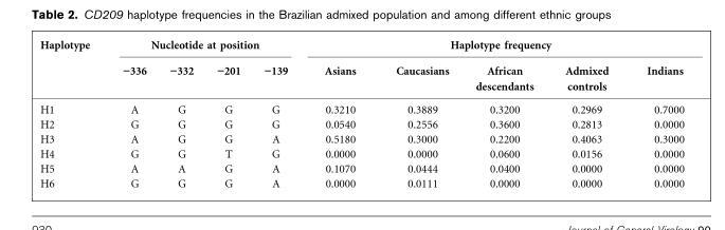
<table><thead><tr><td rowspan="2">Haplotype</td><td colspan="4">Nucleotide at position</td><td colspan="5">Haplotype frequency</td></tr><tr><td>”336</td><td>”332</td><td>”201</td><td>”139</td><td>Asians</td><td>Caucasians</td><td>African descendants</td><td>Admixed controls</td><td>Indians</td></tr></thead><tbody><tr><td>H1</td><td>A</td><td>G</td><td>G</td><td>G</td><td>0.3210</td><td>0.3889</td><td>0.3200</td><td>0.2969</td><td>0.7000</td></tr><tr><td>H2</td><td>G</td><td>G</td><td>G</td><td>G</td><td>0.0540</td><td>0.2556</td><td>0.3600</td><td>0.2813</td><td>0.0000</td></tr><tr><td>H3</td><td>A</td><td>G</td><td>G</td><td>A</td><td>0.5180</td><td>0.3000</td><td>0.2200</td><td>0.4063</td><td>0.3000</td></tr><tr><td>H4</td><td>G</td><td>G</td><td>T</td><td>G</td><td>0.0000</td><td>0.0000</td><td>0.0600</td><td>0.0156</td><td>0.0000</td></tr><tr><td>H5</td><td>A</td><td>A</td><td>G</td><td>A</td><td>0.1070</td><td>0.0444</td><td>0.0400</td><td>0.0000</td><td>0.0000</td></tr><tr><td>H6</td><td>G</td><td>G</td><td>G</td><td>A</td><td>0.0000</td><td>0.0111</td><td>0.0000</td><td>0.0000</td><td>0.0000</td></tr></tbody></table>